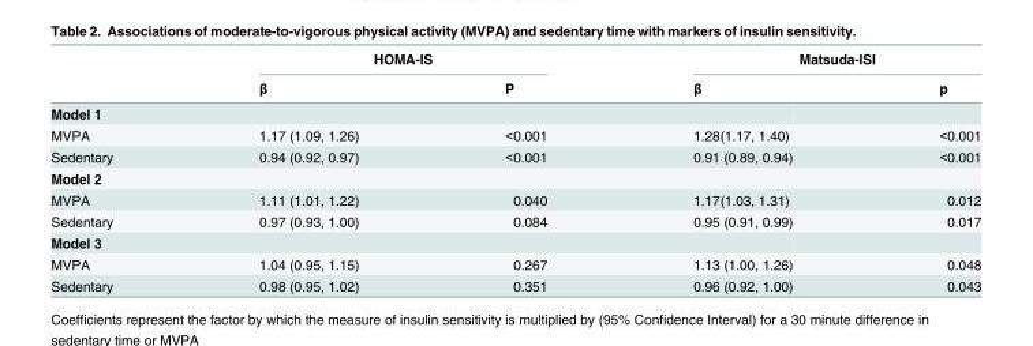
<table><thead><tr><td rowspan="2"></td><td colspan="2">HOMA-IS</td><td colspan="2">Matsuda-ISI</td></tr><tr><td>β</td><td>P</td><td>β</td><td>p</td></tr></thead><tbody><tr><td colspan="5">Model 1</td></tr><tr><td>MVPA</td><td>1.17 (1.09, 1.26)</td><td>&lt;0.001</td><td>1.28(1.17, 1.40)</td><td>&lt;0.001</td></tr><tr><td>Sedentary</td><td>0.94 (0.92, 0.97)</td><td>&lt;0.001</td><td>0.91 (0.89, 0.94)</td><td>&lt;0.001</td></tr><tr><td colspan="5">Model 2</td></tr><tr><td>MVPA</td><td>1.11 (1.01, 1.22)</td><td>0.040</td><td>1.17(1.03, 1.31)</td><td>0.012</td></tr><tr><td>Sedentary</td><td>0.97 (0.93, 1.00)</td><td>0.084</td><td>0.95 (0.91, 0.99)</td><td>0.017</td></tr><tr><td colspan="5">Model 3</td></tr><tr><td>MVPA</td><td>1.04 (0.95, 1.15)</td><td>0.267</td><td>1.13 (1.00, 1.26)</td><td>0.048</td></tr><tr><td>Sedentary</td><td>0.98 (0.95, 1.02)</td><td>0.351</td><td>0.96 (0.92, 1.00)</td><td>0.043</td></tr></tbody></table>